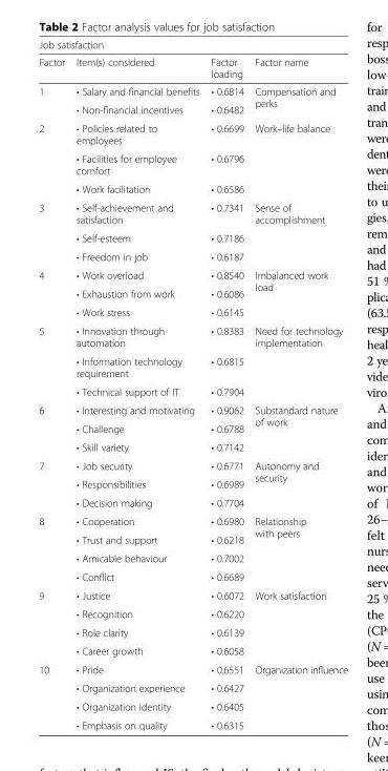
<table><thead><tr><td colspan="4">Job satisfaction</td></tr><tr><td>Factor</td><td>Item(s) considered</td><td>Factor loading</td><td>Factor name</td></tr></thead><tbody><tr><td rowspan="2">1</td><td>• Salary and financial benefits</td><td>• 0.6814</td><td rowspan="2">Compensation and perks</td></tr><tr><td>• Non-financial incentives</td><td>• 0.6482</td></tr><tr><td rowspan="3">2</td><td>• Policies related to employees</td><td>• 0.6699</td><td rowspan="3">Work–life balance</td></tr><tr><td>• Facilities for employee comfort</td><td>• 0.6796</td></tr><tr><td>• Work facilitation</td><td>• 0.6586</td></tr><tr><td rowspan="3">3</td><td>• Self-achievement and satisfaction</td><td>• 0.7341</td><td rowspan="3">Sense of accomplishment</td></tr><tr><td>• Self-esteem</td><td>• 0.7186</td></tr><tr><td>• Freedom in job</td><td>• 0.6187</td></tr><tr><td rowspan="3">4</td><td>• Work overload</td><td>• 0.8540</td><td rowspan="3">Imbalanced work load</td></tr><tr><td>• Exhaustion from work</td><td>• 0.6086</td></tr><tr><td>• Work stress</td><td>• 0.6145</td></tr><tr><td rowspan="3">5</td><td>• Innovation through automation</td><td>• 0.8383</td><td rowspan="3">Need for technology implementation</td></tr><tr><td>• Information technology requirement</td><td>• 0.6815</td></tr><tr><td>• Technical support of IT</td><td>• 0.7904</td></tr><tr><td rowspan="3">6</td><td>• Interesting and motivating</td><td>• 0.9062</td><td rowspan="3">Substandard nature of work</td></tr><tr><td>• Challenge</td><td>• 0.6788</td></tr><tr><td>• Skill variety</td><td>• 0.7142</td></tr><tr><td rowspan="3">7</td><td>• Job security</td><td>• 0.6771</td><td rowspan="3">Autonomy and security</td></tr><tr><td>• Responsibilities</td><td>• 0.6989</td></tr><tr><td>• Decision making</td><td>• 0.7704</td></tr><tr><td rowspan="4">8</td><td>• Cooperation</td><td>• 0.6980</td><td rowspan="4">Relationship with peers</td></tr><tr><td>• Trust and support</td><td>• 0.6218</td></tr><tr><td>• Amicable behaviour</td><td>• 0.7002</td></tr><tr><td>• Conflict</td><td>• 0.6689</td></tr><tr><td rowspan="4">9</td><td>• Justice</td><td>• 0.6072</td><td rowspan="4">Work satisfaction</td></tr><tr><td>• Recognition</td><td>• 0.6220</td></tr><tr><td>• Role clarity</td><td>• 0.6139</td></tr><tr><td>• Career growth</td><td>• 0.6058</td></tr><tr><td rowspan="4">10</td><td>• Pride</td><td>• 0.6551</td><td rowspan="4">Organization influence</td></tr><tr><td>• Organization experience</td><td>• 0.6427</td></tr><tr><td>• Organization identity</td><td>• 0.6405</td></tr><tr><td>• Emphasis on quality</td><td>• 0.6315</td></tr></tbody></table>